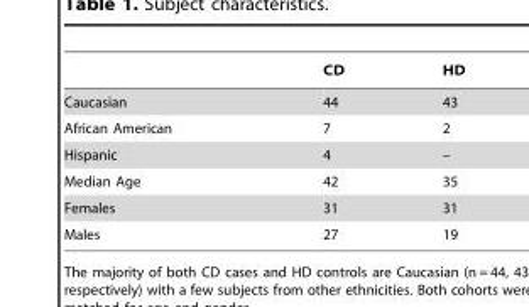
<table><thead><tr><td></td><td>CD</td><td>HD</td></tr></thead><tbody><tr><td>Caucasian</td><td>44</td><td>43</td></tr><tr><td>African American</td><td>7</td><td>2</td></tr><tr><td>Hispanic</td><td>4</td><td>–</td></tr><tr><td>Median Age</td><td>42</td><td>35</td></tr><tr><td>Females</td><td>31</td><td>31</td></tr><tr><td>Males</td><td>27</td><td>19</td></tr></tbody></table>